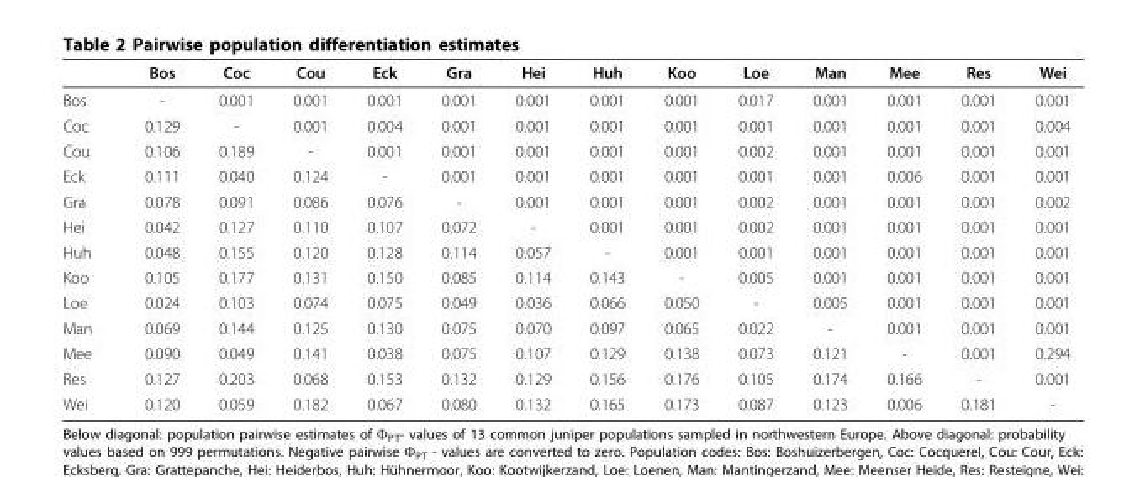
<table><thead><tr><td></td><td>Bos</td><td>Coc</td><td>Cou</td><td>Eck</td><td>Gra</td><td>Hei</td><td>Huh</td><td>Koo</td><td>Loe</td><td>Man</td><td>Mee</td><td>Res</td><td>Wei</td></tr></thead><tbody><tr><td>Bos</td><td>-</td><td>0.001</td><td>0.001</td><td>0.001</td><td>0.001</td><td>0.001</td><td>0.001</td><td>0.001</td><td>0.017</td><td>0.001</td><td>0.001</td><td>0.001</td><td>0.001</td></tr><tr><td>Coc</td><td>0.129</td><td>-</td><td>0.001</td><td>0.004</td><td>0.001</td><td>0.001</td><td>0.001</td><td>0.001</td><td>0.001</td><td>0.001</td><td>0.001</td><td>0.001</td><td>0.004</td></tr><tr><td>Cou</td><td>0.106</td><td>0.189</td><td>-</td><td>0.001</td><td>0.001</td><td>0.001</td><td>0.001</td><td>0.001</td><td>0.002</td><td>0.001</td><td>0.001</td><td>0.001</td><td>0.001</td></tr><tr><td>Eck</td><td>0.111</td><td>0.040</td><td>0.124</td><td>-</td><td>0.001</td><td>0.001</td><td>0.001</td><td>0.001</td><td>0.001</td><td>0.001</td><td>0.006</td><td>0.001</td><td>0.001</td></tr><tr><td>Gra</td><td>0.078</td><td>0.091</td><td>0.086</td><td>0.076</td><td>-</td><td>0.001</td><td>0.001</td><td>0.001</td><td>0.002</td><td>0.001</td><td>0.001</td><td>0.001</td><td>0.002</td></tr><tr><td>Hei</td><td>0.042</td><td>0.127</td><td>0.110</td><td>0.107</td><td>0.072</td><td>-</td><td>0.001</td><td>0.001</td><td>0.002</td><td>0.001</td><td>0.001</td><td>0.001</td><td>0.001</td></tr><tr><td>Huh</td><td>0.048</td><td>0.155</td><td>0.120</td><td>0.128</td><td>0.114</td><td>0.057</td><td>-</td><td>0.001</td><td>0.001</td><td>0.001</td><td>0.001</td><td>0.001</td><td>0.001</td></tr><tr><td>Koo</td><td>0.105</td><td>0.177</td><td>0.131</td><td>0.150</td><td>0.085</td><td>0.114</td><td>0.143</td><td>-</td><td>0.005</td><td>0.001</td><td>0.001</td><td>0.001</td><td>0.001</td></tr><tr><td>Loe</td><td>0.024</td><td>0.103</td><td>0.074</td><td>0.075</td><td>0.049</td><td>0.036</td><td>0.066</td><td>0.050</td><td>-</td><td>0.005</td><td>0.001</td><td>0.001</td><td>0.001</td></tr><tr><td>Man</td><td>0.069</td><td>0.144</td><td>0.125</td><td>0.130</td><td>0.075</td><td>0.070</td><td>0.097</td><td>0.065</td><td>0.022</td><td>-</td><td>0.001</td><td>0.001</td><td>0.001</td></tr><tr><td>Mee</td><td>0.090</td><td>0.049</td><td>0.141</td><td>0.038</td><td>0.075</td><td>0.107</td><td>0.129</td><td>0.138</td><td>0.073</td><td>0.121</td><td>-</td><td>0.001</td><td>0.294</td></tr><tr><td>Res</td><td>0.127</td><td>0.203</td><td>0.068</td><td>0.153</td><td>0.132</td><td>0.129</td><td>0.156</td><td>0.176</td><td>0.105</td><td>0.174</td><td>0.166</td><td>-</td><td>0.001</td></tr><tr><td>Wei</td><td>0.120</td><td>0.059</td><td>0.182</td><td>0.067</td><td>0.080</td><td>0.132</td><td>0.165</td><td>0.173</td><td>0.087</td><td>0.123</td><td>0.006</td><td>0.181</td><td>-</td></tr></tbody></table>